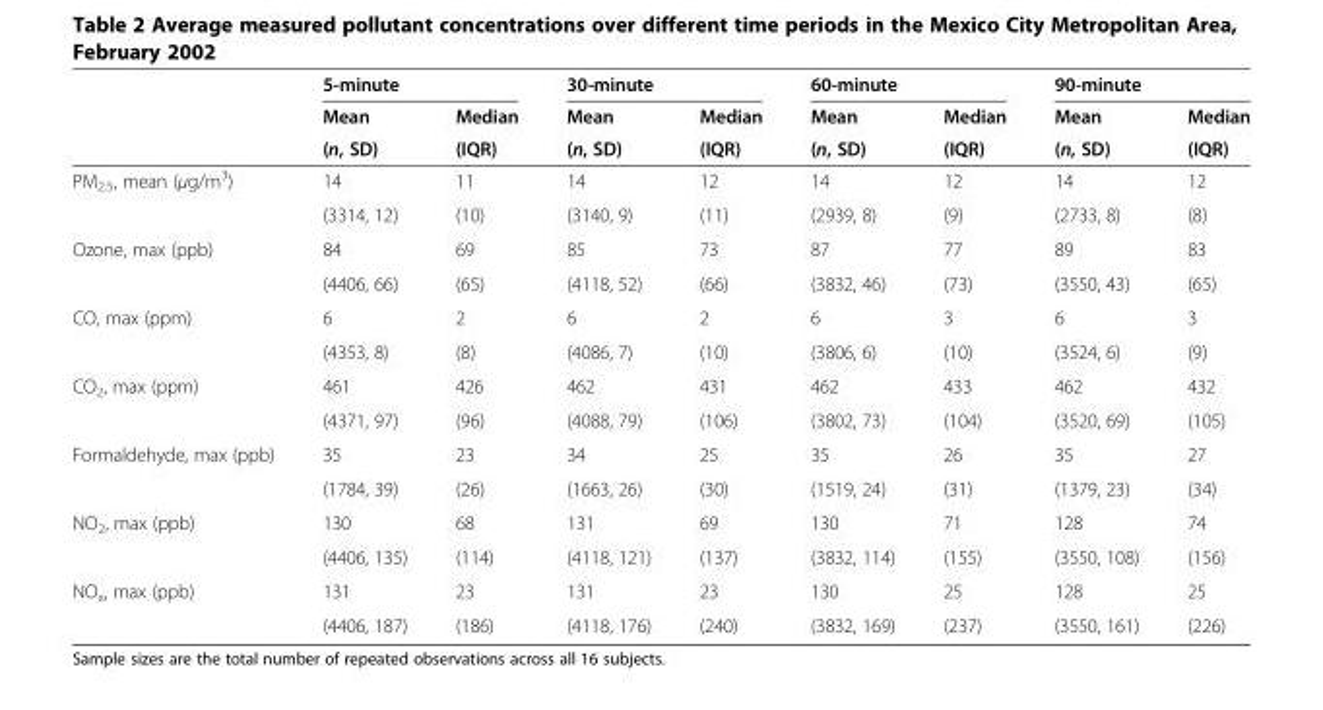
<table><thead><tr><td rowspan="3"></td><td colspan="2">5-minute</td><td colspan="2">30-minute</td><td colspan="2">60-minute</td><td colspan="2">90-minute</td></tr><tr><td rowspan="2">Mean (n, SD)</td><td rowspan="2">Median (IQR)</td><td rowspan="2">Mean (n, SD)</td><td rowspan="2">Median (IQR)</td><td rowspan="2">Mean (n, SD)</td><td rowspan="2">Median (IQR)</td><td rowspan="2">Mean (n, SD)</td><td rowspan="2">Median (IQR)</td></tr><tr></tr></thead><tbody><tr><td rowspan="2">PM<sub>2.5</sub>, mean (μg/m<sup>3</sup>)</td><td>14</td><td>11</td><td>14</td><td>12</td><td>14</td><td>12</td><td>14</td><td>12</td></tr><tr><td>(3314, 12)</td><td>(10)</td><td>(3140, 9)</td><td>(11)</td><td>(2939, 8)</td><td>(9)</td><td>(2733, 8)</td><td>(8)</td></tr><tr><td rowspan="2">Ozone, max (ppb)</td><td>84</td><td>69</td><td>85</td><td>73</td><td>87</td><td>77</td><td>89</td><td>83</td></tr><tr><td>(4406, 66)</td><td>(65)</td><td>(4118, 52)</td><td>(66)</td><td>(3832, 46)</td><td>(73)</td><td>(3550, 43)</td><td>(65)</td></tr><tr><td rowspan="2">CO, max (ppm)</td><td>6</td><td>2</td><td>6</td><td>2</td><td>6</td><td>3</td><td>6</td><td>3</td></tr><tr><td>(4353, 8)</td><td>(8)</td><td>(4086, 7)</td><td>(10)</td><td>(3806, 6)</td><td>(10)</td><td>(3524, 6)</td><td>(9)</td></tr><tr><td rowspan="2">CO<sub>2</sub>, max (ppm)</td><td>461</td><td>426</td><td>462</td><td>431</td><td>462</td><td>433</td><td>462</td><td>432</td></tr><tr><td>(4371, 97)</td><td>(96)</td><td>(4088, 79)</td><td>(106)</td><td>(3802, 73)</td><td>(104)</td><td>(3520, 69)</td><td>(105)</td></tr><tr><td rowspan="2">Formaldehyde, max (ppb)</td><td>35</td><td>23</td><td>34</td><td>25</td><td>35</td><td>26</td><td>35</td><td>27</td></tr><tr><td>(1784, 39)</td><td>(26)</td><td>(1663, 26)</td><td>(30)</td><td>(1519, 24)</td><td>(31)</td><td>(1379, 23)</td><td>(34)</td></tr><tr><td rowspan="2">NO<sub>2</sub>, max (ppb)</td><td>130</td><td>68</td><td>131</td><td>69</td><td>130</td><td>71</td><td>128</td><td>74</td></tr><tr><td>(4406, 135)</td><td>(114)</td><td>(4118, 121)</td><td>(137)</td><td>(3832, 114)</td><td>(155)</td><td>(3550, 108)</td><td>(156)</td></tr><tr><td rowspan="2">NO<sub>x</sub>, max (ppb)</td><td>131</td><td>23</td><td>131</td><td>23</td><td>130</td><td>25</td><td>128</td><td>25</td></tr><tr><td>(4406, 187)</td><td>(186)</td><td>(4118, 176)</td><td>(240)</td><td>(3832, 169)</td><td>(237)</td><td>(3550, 161)</td><td>(226)</td></tr></tbody></table>